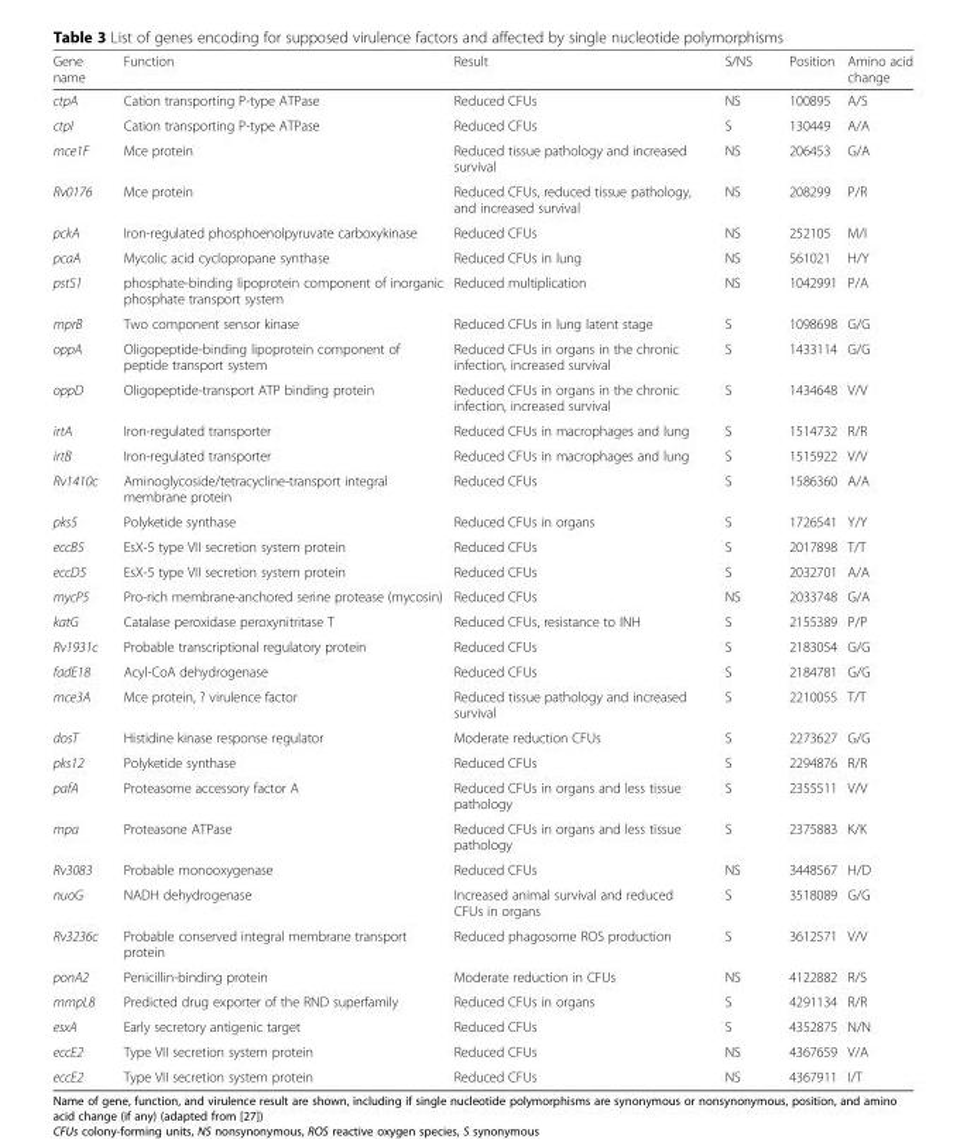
<table><thead><tr><td>Gene name</td><td>Function</td><td>Result</td><td>S/NS</td><td>Position</td><td>Amino acid change</td></tr></thead><tbody><tr><td>ctpA</td><td>Cation transporting P-type ATPase</td><td>Reduced CFUs</td><td>NS</td><td>100895</td><td>A/S</td></tr><tr><td>ctpI</td><td>Cation transporting P-type ATPase</td><td>Reduced CFUs</td><td>S</td><td>130449</td><td>A/A</td></tr><tr><td>mce1F</td><td>Mce protein</td><td>Reduced tissue pathology and increased survival</td><td>NS</td><td>206453</td><td>G/A</td></tr><tr><td>Rv0176</td><td>Mce protein</td><td>Reduced CFUs, reduced tissue pathology, and increased survival</td><td>NS</td><td>208299</td><td>P/R</td></tr><tr><td>pckA</td><td>Iron-regulated phosphoenolpyruvate carboxykinase</td><td>Reduced CFUs</td><td>NS</td><td>252105</td><td>M/I</td></tr><tr><td>pcaA</td><td>Mycolic acid cyclopropane synthase</td><td>Reduced CFUs in lung</td><td>NS</td><td>561021</td><td>H/Y</td></tr><tr><td>pstS1</td><td>phosphate-binding lipoprotein component of inorganic phosphate transport system</td><td>Reduced multiplication</td><td>NS</td><td>1042991</td><td>P/A</td></tr><tr><td>mprB</td><td>Two component sensor kinase</td><td>Reduced CFUs in lung latent stage</td><td>S</td><td>1098698</td><td>G/G</td></tr><tr><td>oppA</td><td>Oligopeptide-binding lipoprotein component of peptide transport system</td><td>Reduced CFUs in organs in the chronic infection, increased survival</td><td>S</td><td>1433114</td><td>G/G</td></tr><tr><td>oppD</td><td>Oligopeptide-transport ATP binding protein</td><td>Reduced CFUs in organs in the chronic infection, increased survival</td><td>S</td><td>1434648</td><td>V/V</td></tr><tr><td>irtA</td><td>Iron-regulated transporter</td><td>Reduced CFUs in macrophages and lung</td><td>S</td><td>1514732</td><td>R/R</td></tr><tr><td>irtB</td><td>Iron-regulated transporter</td><td>Reduced CFUs in macrophages and lung</td><td>S</td><td>1515922</td><td>V/V</td></tr><tr><td>Rv1410c</td><td>Aminoglycoside/tetracycline-transport integral membrane protein</td><td>Reduced CFUs</td><td>S</td><td>1586360</td><td>A/A</td></tr><tr><td>pks5</td><td>Polyketide synthase</td><td>Reduced CFUs in organs</td><td>S</td><td>1726541</td><td>Y/Y</td></tr><tr><td>eccB5</td><td>EsX-5 type VII secretion system protein</td><td>Reduced CFUs</td><td>S</td><td>2017898</td><td>T/T</td></tr><tr><td>eccD5</td><td>EsX-5 type VII secretion system protein</td><td>Reduced CFUs</td><td>S</td><td>2032701</td><td>A/A</td></tr><tr><td>mycP5</td><td>Pro-rich membrane-anchored serine protease (mycosin)</td><td>Reduced CFUs</td><td>NS</td><td>2033748</td><td>G/A</td></tr><tr><td>katG</td><td>Catalase peroxidase peroxynitritase T</td><td>Reduced CFUs, resistance to INH</td><td>S</td><td>2155389</td><td>P/P</td></tr><tr><td>Rv1931c</td><td>Probable transcriptional regulatory protein</td><td>Reduced CFUs</td><td>S</td><td>2183054</td><td>G/G</td></tr><tr><td>fadE18</td><td>Acyl-CoA dehydrogenase</td><td>Reduced CFUs</td><td>S</td><td>2184781</td><td>G/G</td></tr><tr><td>mce3A</td><td>Mce protein, ? virulence factor</td><td>Reduced tissue pathology and increased survival</td><td>S</td><td>2210055</td><td>T/T</td></tr><tr><td>dosT</td><td>Histidine kinase response regulator</td><td>Moderate reduction CFUs</td><td>S</td><td>2273627</td><td>G/G</td></tr><tr><td>pks12</td><td>Polyketide synthase</td><td>Reduced CFUs</td><td>S</td><td>2294876</td><td>R/R</td></tr><tr><td>pafA</td><td>Proteasome accessory factor A</td><td>Reduced CFUs in organs and less tissue pathology</td><td>S</td><td>2355511</td><td>V/V</td></tr><tr><td>mpa</td><td>Proteasone ATPase</td><td>Reduced CFUs in organs and less tissue pathology</td><td>S</td><td>2375883</td><td>K/K</td></tr><tr><td>Rv3083</td><td>Probable monooxygenase</td><td>Reduced CFUs</td><td>NS</td><td>3448567</td><td>H/D</td></tr><tr><td>nuoG</td><td>NADH dehydrogenase</td><td>Increased animal survival and reduced CFUs in organs</td><td>S</td><td>3518089</td><td>G/G</td></tr><tr><td>Rv3236c</td><td>Probable conserved integral membrane transport protein</td><td>Reduced phagosome ROS production</td><td>S</td><td>3612571</td><td>V/V</td></tr><tr><td>ponA2</td><td>Penicillin-binding protein</td><td>Moderate reduction in CFUs</td><td>NS</td><td>4122882</td><td>R/S</td></tr><tr><td>mmpL8</td><td>Predicted drug exporter of the RND superfamily</td><td>Reduced CFUs in organs</td><td>S</td><td>4291134</td><td>R/R</td></tr><tr><td>esxA</td><td>Early secretory antigenic target</td><td>Reduced CFUs</td><td>S</td><td>4352875</td><td>N/N</td></tr><tr><td>eccE2</td><td>Type VII secretion system protein</td><td>Reduced CFUs</td><td>NS</td><td>4367659</td><td>V/A</td></tr><tr><td>eccE2</td><td>Type VII secretion system protein</td><td>Reduced CFUs</td><td>NS</td><td>4367911</td><td>I/T</td></tr></tbody></table>